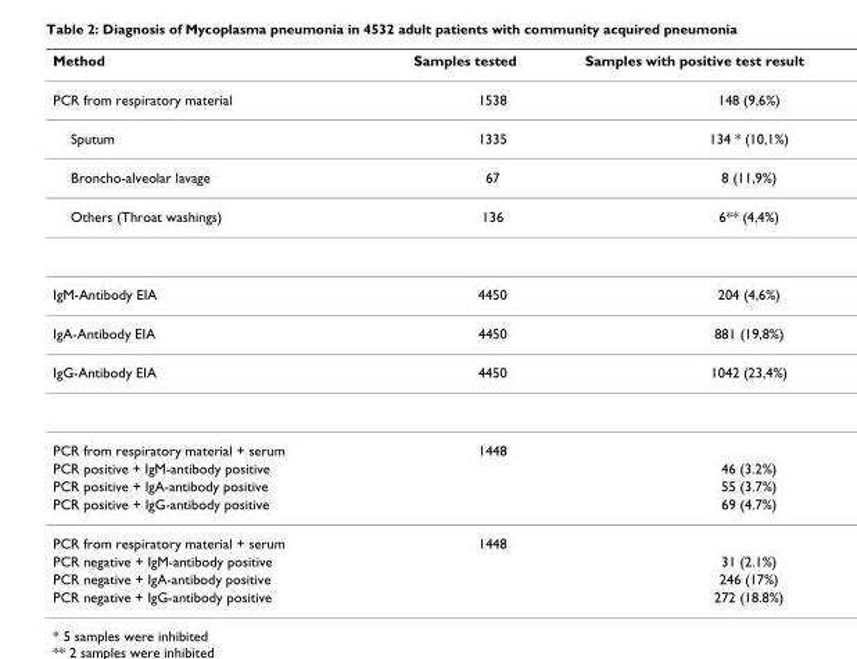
<table><thead><tr><td>Method</td><td>Samples tested</td><td>Samples with positive test result</td></tr></thead><tbody><tr><td>PCR from respiratory material</td><td>1538</td><td>148 (9,6%)</td></tr><tr><td>Sputum</td><td>1335</td><td>134 * (10,1%)</td></tr><tr><td>Broncho-alveolar lavage</td><td>67</td><td>8 (11,9%)</td></tr><tr><td>Others (Throat washings)</td><td>136</td><td>6** (4,4%)</td></tr><tr><td>IgM-Antibody EIA</td><td>4450</td><td>204 (4,6%)</td></tr><tr><td>IgA-Antibody EIA</td><td>4450</td><td>881 (19,8%)</td></tr><tr><td>IgG-Antibody EIA</td><td>4450</td><td>1042 (23,4%)</td></tr><tr><td>PCR from respiratory material + serum</td><td>1448</td><td></td></tr><tr><td>PCR positive + IgM-antibody positive</td><td></td><td>46 (3.2%)</td></tr><tr><td>PCR positive + IgA-antibody positive</td><td></td><td>55 (3.7%)</td></tr><tr><td>PCR positive + IgG-antibody positive</td><td></td><td>69 (4.7%)</td></tr><tr><td>PCR from respiratory material + serum</td><td>1448</td><td></td></tr><tr><td>PCR negative + IgM-antibody positive</td><td></td><td>31 (2.1%)</td></tr><tr><td>PCR negative + IgA-antibody positive</td><td></td><td>246 (17%)</td></tr><tr><td>PCR negative + IgG-antibody positive</td><td></td><td>272 (18.8%)</td></tr></tbody></table>